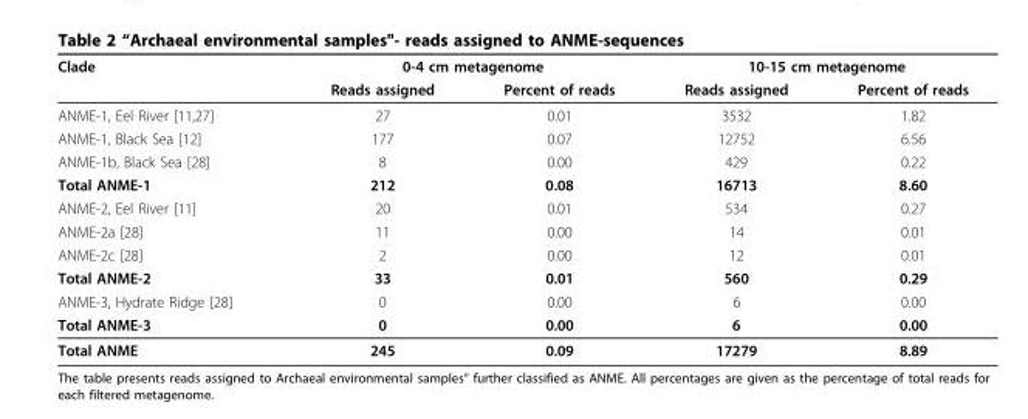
<table><thead><tr><td rowspan="2">Clade</td><td colspan="2">0-4 cm metagenome</td><td colspan="2">10-15 cm metagenome</td></tr><tr><td>Reads assigned</td><td>Percent of reads</td><td>Reads assigned</td><td>Percent of reads</td></tr></thead><tbody><tr><td>ANME-1, Eel River [11,27]</td><td>27</td><td>0.01</td><td>3532</td><td>1.82</td></tr><tr><td>ANME-1, Black Sea [12]</td><td>177</td><td>0.07</td><td>12752</td><td>6.56</td></tr><tr><td>ANME-1b, Black Sea [28]</td><td>8</td><td>0.00</td><td>429</td><td>0.22</td></tr><tr><td>Total ANME-1</td><td>212</td><td>0.08</td><td>16713</td><td>8.60</td></tr><tr><td>ANME-2, Eel River [11]</td><td>20</td><td>0.01</td><td>534</td><td>0.27</td></tr><tr><td>ANME-2a [28]</td><td>11</td><td>0.00</td><td>14</td><td>0.01</td></tr><tr><td>ANME-2c [28]</td><td>2</td><td>0.00</td><td>12</td><td>0.01</td></tr><tr><td>Total ANME-2</td><td>33</td><td>0.01</td><td>560</td><td>0.29</td></tr><tr><td>ANME-3, Hydrate Ridge [28]</td><td>0</td><td>0.00</td><td>6</td><td>0.00</td></tr><tr><td>Total ANME-3</td><td>0</td><td>0.00</td><td>6</td><td>0.00</td></tr><tr><td>Total ANME</td><td>245</td><td>0.09</td><td>17279</td><td>8.89</td></tr></tbody></table>